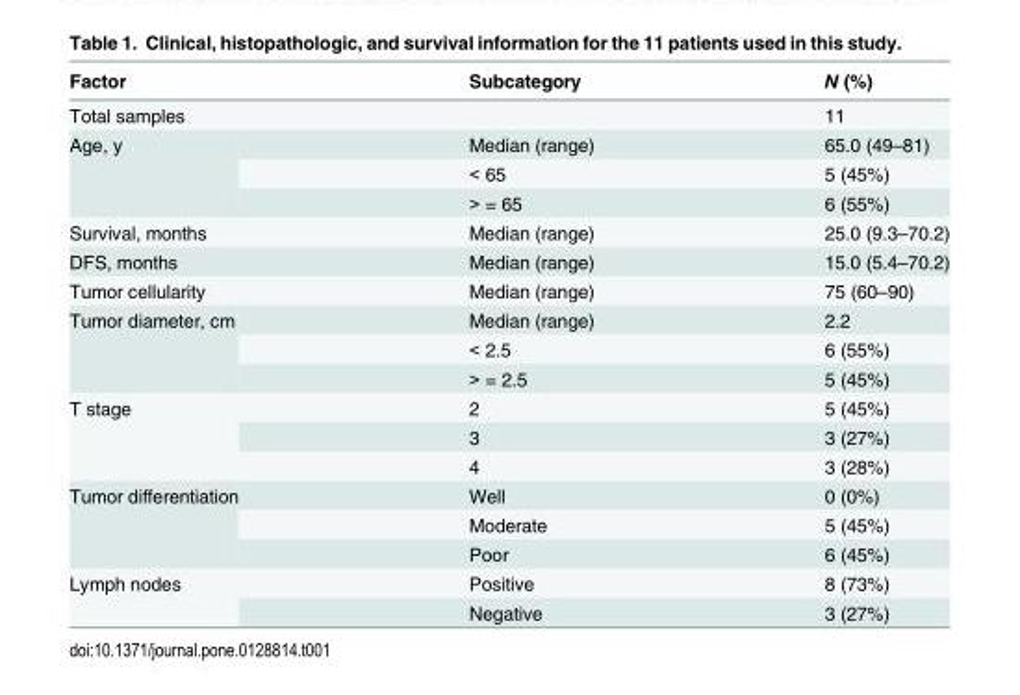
<table><thead><tr><td>Factor</td><td>Subcategory</td><td>N (%)</td></tr></thead><tbody><tr><td>Total samples</td><td></td><td>11</td></tr><tr><td rowspan="3">Age, y</td><td>Median (range)</td><td>65.0 (49–81)</td></tr><tr><td>&lt; 65</td><td>5 (45%)</td></tr><tr><td>&gt; = 65</td><td>6 (55%)</td></tr><tr><td>Survival, months</td><td>Median (range)</td><td>25.0 (9.3–70.2)</td></tr><tr><td>DFS, months</td><td>Median (range)</td><td>15.0 (5.4–70.2)</td></tr><tr><td>Tumor cellularity</td><td>Median (range)</td><td>75 (60–90)</td></tr><tr><td rowspan="3">Tumor diameter, cm</td><td>Median (range)</td><td>2.2</td></tr><tr><td>&lt; 2.5</td><td>6 (55%)</td></tr><tr><td>&gt; = 2.5</td><td>5 (45%)</td></tr><tr><td rowspan="3">T stage</td><td>2</td><td>5 (45%)</td></tr><tr><td>3</td><td>3 (27%)</td></tr><tr><td>4</td><td>3 (28%)</td></tr><tr><td rowspan="3">Tumor differentiation</td><td>Well</td><td>0 (0%)</td></tr><tr><td>Moderate</td><td>5 (45%)</td></tr><tr><td>Poor</td><td>6 (45%)</td></tr><tr><td rowspan="2">Lymph nodes</td><td>Positive</td><td>8 (73%)</td></tr><tr><td>Negative</td><td>3 (27%)</td></tr></tbody></table>